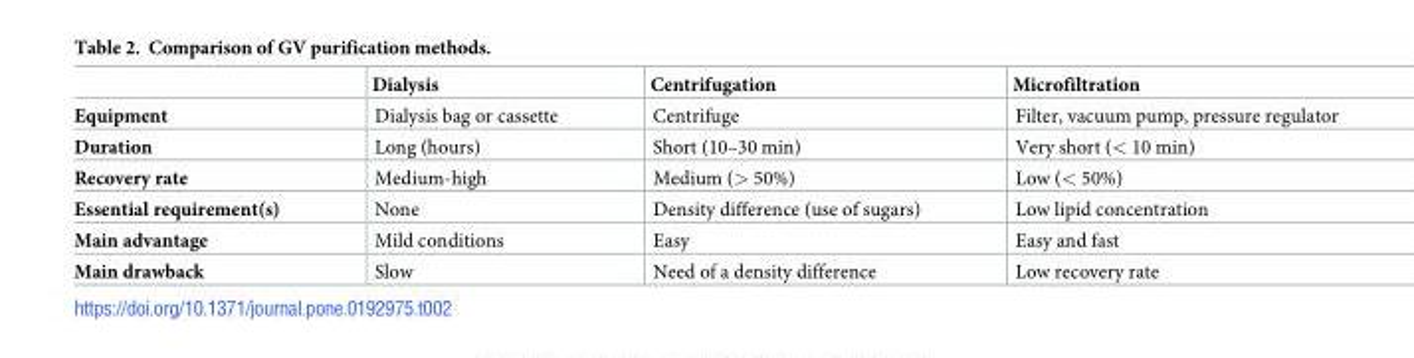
<table><thead><tr><td></td><td>Dialysis</td><td>Centrifugation</td><td>Microfiltration</td></tr></thead><tbody><tr><td>Equipment</td><td>Dialysis bag or cassette</td><td>Centrifuge</td><td>Filter, vacuum pump, pressure regulator</td></tr><tr><td>Duration</td><td>Long (hours)</td><td>Short (10–30 min)</td><td>Very short (&lt; 10 min)</td></tr><tr><td>Recovery rate</td><td>Medium-high</td><td>Medium (&gt; 50%)</td><td>Low (&lt; 50%)</td></tr><tr><td>Essential requirement(s)</td><td>None</td><td>Density difference (use of sugars)</td><td>Low lipid concentration</td></tr><tr><td>Main advantage</td><td>Mild conditions</td><td>Easy</td><td>Easy and fast</td></tr><tr><td>Main drawback</td><td>Slow</td><td>Need of a density difference</td><td>Low recovery rate</td></tr></tbody></table>